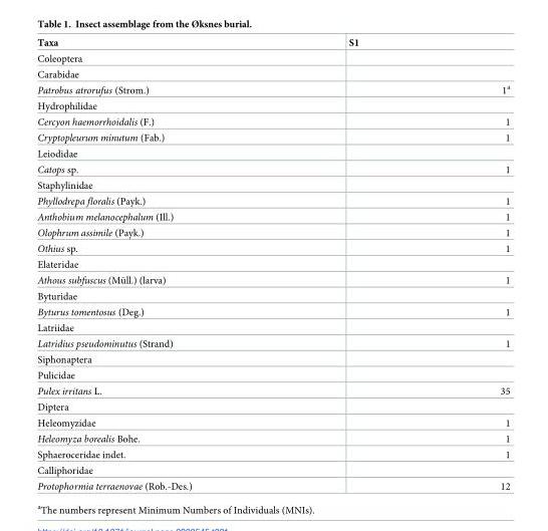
<table><thead><tr><td>Taxa</td><td>S1</td></tr></thead><tbody><tr><td colspan="2">Coleoptera</td></tr><tr><td colspan="2">Carabidae</td></tr><tr><td>Patrobus atrorufus (Strom.)</td><td>1<sup>a</sup></td></tr><tr><td colspan="2">Hydrophilidae</td></tr><tr><td>Cercyon haemorrhoidalis (F.)</td><td>1</td></tr><tr><td>Cryptopleurum minutum (Fab.)</td><td>1</td></tr><tr><td colspan="2">Leiodidae</td></tr><tr><td>Catops sp.</td><td>1</td></tr><tr><td colspan="2">Staphylinidae</td></tr><tr><td>Phyllodrepa floralis (Payk.)</td><td>1</td></tr><tr><td>Anthobium melanocephalum (Ill.)</td><td>1</td></tr><tr><td>Olophrum assimile (Payk.)</td><td>1</td></tr><tr><td>Othius sp.</td><td>1</td></tr><tr><td colspan="2">Elateridae</td></tr><tr><td>Athous subfuscus (Mu¨ll.) (larva)</td><td>1</td></tr><tr><td colspan="2">Byturidae</td></tr><tr><td>Byturus tomentosus (Deg.)</td><td>1</td></tr><tr><td colspan="2">Latriidae</td></tr><tr><td>Latridius pseudominutus (Strand)</td><td>1</td></tr><tr><td colspan="2">Siphonaptera</td></tr><tr><td colspan="2">Pulicidae</td></tr><tr><td>Pulex irritans L.</td><td>35</td></tr><tr><td colspan="2">Diptera</td></tr><tr><td>Heleomyzidae</td><td>1</td></tr><tr><td>Heleomyza borealis Bohe.</td><td>1</td></tr><tr><td>Sphaeroceridae indet.</td><td>1</td></tr><tr><td colspan="2">Calliphoridae</td></tr><tr><td>Protophormia terraenovae (Rob.-Des.)</td><td>12</td></tr></tbody></table>